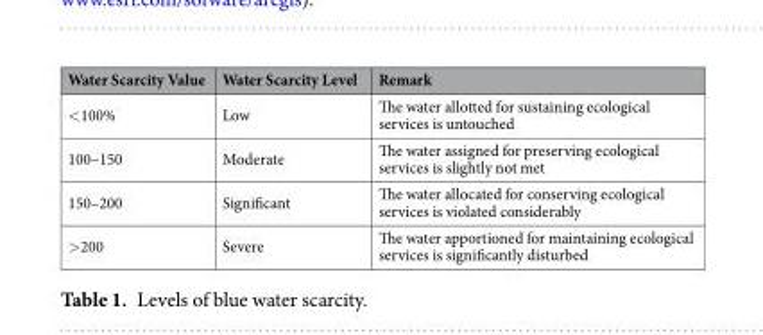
<table><thead><tr><td>Water Scarcity Value</td><td>Water Scarcity Level</td><td>Remark</td></tr></thead><tbody><tr><td>&lt;100%</td><td>Low</td><td>The water allotted for sustaining ecological services is untouched</td></tr><tr><td>100–150</td><td>Moderate</td><td>The water assigned for preserving ecological services is slightly not met</td></tr><tr><td>150–200</td><td>Significant</td><td>The water allocated for conserving ecological services is violated considerably</td></tr><tr><td>&gt;200</td><td>Severe</td><td>The water apportioned for maintaining ecological services is significantly disturbed</td></tr></tbody></table>